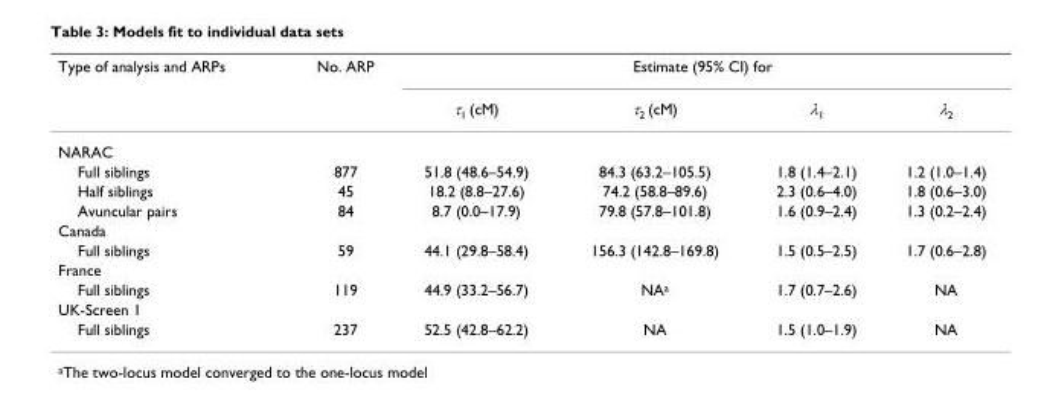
<table><thead><tr><td rowspan="2">Type of analysis and ARPs</td><td rowspan="2">No. ARP</td><td colspan="4">Estimate (95% CI) for</td></tr><tr><td>τ<sub>1</sub> (cM)</td><td>τ<sub>2</sub> (cM)</td><td>λ<sub>1</sub></td><td>λ<sub>2</sub></td></tr></thead><tbody><tr><td colspan="6">NARAC</td></tr><tr><td>Full siblings</td><td>877</td><td>51.8 (48.6–54.9)</td><td>84.3 (63.2–105.5)</td><td>1.8 (1.4–2.1)</td><td>1.2 (1.0–1.4)</td></tr><tr><td>Half siblings</td><td>45</td><td>18.2 (8.8–27.6)</td><td>74.2 (58.8–89.6)</td><td>2.3 (0.6–4.0)</td><td>1.8 (0.6–3.0)</td></tr><tr><td>Avuncular pairs</td><td>84</td><td>8.7 (0.0–17.9)</td><td>79.8 (57.8–101.8)</td><td>1.6 (0.9–2.4)</td><td>1.3 (0.2–2.4)</td></tr><tr><td colspan="6">Canada</td></tr><tr><td>Full siblings</td><td>59</td><td>44.1 (29.8–58.4)</td><td>156.3 (142.8–169.8)</td><td>1.5 (0.5–2.5)</td><td>1.7 (0.6–2.8)</td></tr><tr><td colspan="6">France</td></tr><tr><td>Full siblings</td><td>119</td><td>44.9 (33.2–56.7)</td><td>NA<sup>a</sup></td><td>1.7 (0.7–2.6)</td><td>NA</td></tr><tr><td colspan="6">UK-Screen 1</td></tr><tr><td>Full siblings</td><td>237</td><td>52.5 (42.8–62.2)</td><td>NA</td><td>1.5 (1.0–1.9)</td><td>NA</td></tr></tbody></table>